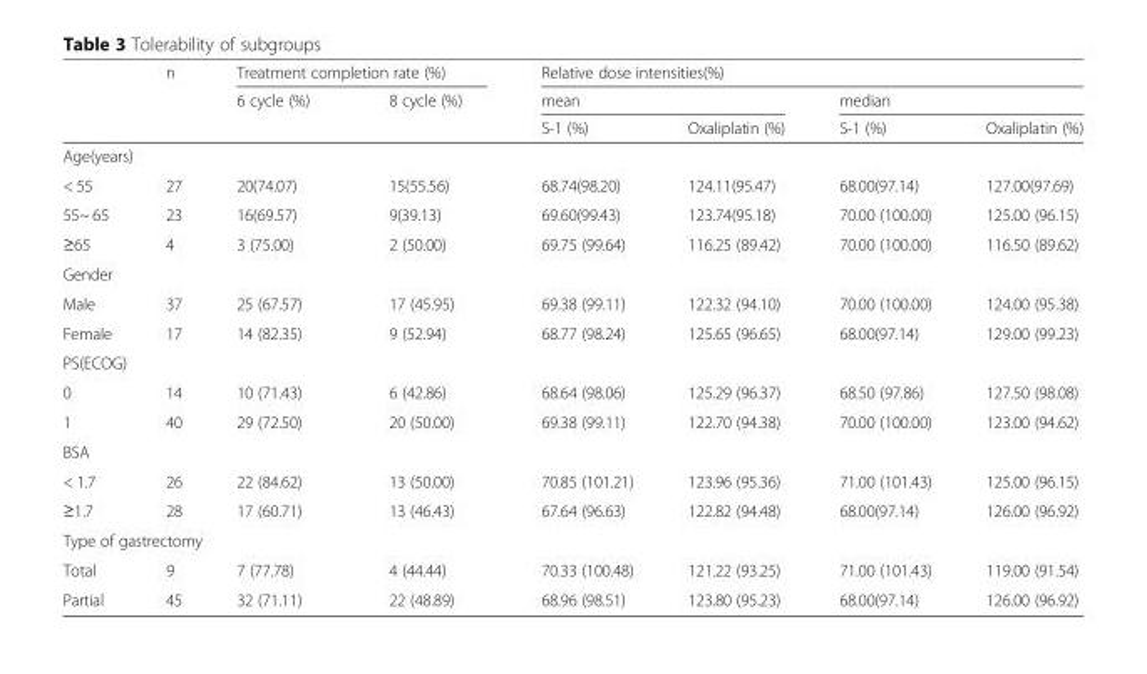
<table><thead><tr><td rowspan="3"></td><td rowspan="3">n</td><td colspan="2">Treatment completion rate (%)</td><td colspan="4">Relative dose intensities(%)</td></tr><tr><td rowspan="2">6 cycle (%)</td><td rowspan="2">8 cycle (%)</td><td colspan="2">mean</td><td colspan="2">median</td></tr><tr><td>S-1 (%)</td><td>Oxaliplatin (%)</td><td>S-1 (%)</td><td>Oxaliplatin (%)</td></tr></thead><tbody><tr><td colspan="8">Age(years)</td></tr><tr><td>&lt; 55</td><td>27</td><td>20(74.07)</td><td>15(55.56)</td><td>68.74(98.20)</td><td>124.11(95.47)</td><td>68.00(97.14)</td><td>127.00(97.69)</td></tr><tr><td>55~ 65</td><td>23</td><td>16(69.57)</td><td>9(39.13)</td><td>69.60(99.43)</td><td>123.74(95.18)</td><td>70.00 (100.00)</td><td>125.00 (96.15)</td></tr><tr><td>≥65</td><td>4</td><td>3 (75.00)</td><td>2 (50.00)</td><td>69.75 (99.64)</td><td>116.25 (89.42)</td><td>70.00 (100.00)</td><td>116.50 (89.62)</td></tr><tr><td colspan="8">Gender</td></tr><tr><td>Male</td><td>37</td><td>25 (67.57)</td><td>17 (45.95)</td><td>69.38 (99.11)</td><td>122.32 (94.10)</td><td>70.00 (100.00)</td><td>124.00 (95.38)</td></tr><tr><td>Female</td><td>17</td><td>14 (82.35)</td><td>9 (52.94)</td><td>68.77 (98.24)</td><td>125.65 (96.65)</td><td>68.00(97.14)</td><td>129.00 (99.23)</td></tr><tr><td colspan="8">PS(ECOG)</td></tr><tr><td>0</td><td>14</td><td>10 (71.43)</td><td>6 (42.86)</td><td>68.64 (98.06)</td><td>125.29 (96.37)</td><td>68.50 (97.86)</td><td>127.50 (98.08)</td></tr><tr><td>1</td><td>40</td><td>29 (72.50)</td><td>20 (50.00)</td><td>69.38 (99.11)</td><td>122.70 (94.38)</td><td>70.00 (100.00)</td><td>123.00 (94.62)</td></tr><tr><td colspan="8">BSA</td></tr><tr><td>&lt; 1.7</td><td>26</td><td>22 (84.62)</td><td>13 (50.00)</td><td>70.85 (101.21)</td><td>123.96 (95.36)</td><td>71.00 (101.43)</td><td>125.00 (96.15)</td></tr><tr><td>≥1.7</td><td>28</td><td>17 (60.71)</td><td>13 (46.43)</td><td>67.64 (96.63)</td><td>122.82 (94.48)</td><td>68.00(97.14)</td><td>126.00 (96.92)</td></tr><tr><td colspan="8">Type of gastrectomy</td></tr><tr><td>Total</td><td>9</td><td>7 (77.78)</td><td>4 (44.44)</td><td>70.33 (100.48)</td><td>121.22 (93.25)</td><td>71.00 (101.43)</td><td>119.00 (91.54)</td></tr><tr><td>Partial</td><td>45</td><td>32 (71.11)</td><td>22 (48.89)</td><td>68.96 (98.51)</td><td>123.80 (95.23)</td><td>68.00(97.14)</td><td>126.00 (96.92)</td></tr></tbody></table>